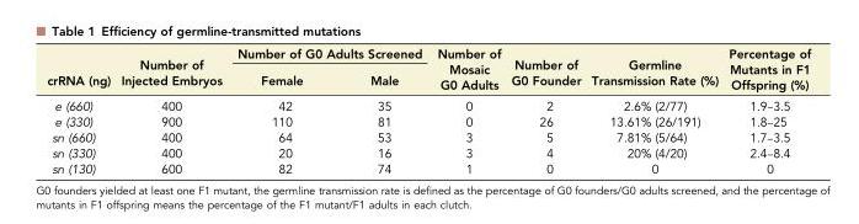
<table><thead><tr><td rowspan="2">crRNA (ng)</td><td rowspan="2">Number of Injected Embryos</td><td colspan="2">Number of G0 Adults Screened</td><td rowspan="2">Number of Mosaic G0 Adults</td><td rowspan="2">Number of G0 Founder</td><td rowspan="2">Germline Transmission Rate (%)</td><td rowspan="2">Percentage of Mutants in F1 Offspring (%)</td></tr><tr><td>Female</td><td>Male</td></tr></thead><tbody><tr><td>e (660)</td><td>400</td><td>42</td><td>35</td><td>0</td><td>2</td><td>2.6% (2/77)</td><td>1.9–3.5</td></tr><tr><td>e (330)</td><td>900</td><td>110</td><td>81</td><td>0</td><td>26</td><td>13.61% (26/191)</td><td>1.8–25</td></tr><tr><td>sn (660)</td><td>400</td><td>64</td><td>53</td><td>3</td><td>5</td><td>7.81% (5/64)</td><td>1.7–3.5</td></tr><tr><td>sn (330)</td><td>400</td><td>20</td><td>16</td><td>3</td><td>4</td><td>20% (4/20)</td><td>2.4–8.4</td></tr><tr><td>sn (130)</td><td>600</td><td>82</td><td>74</td><td>1</td><td>0</td><td>0</td><td>0</td></tr></tbody></table>